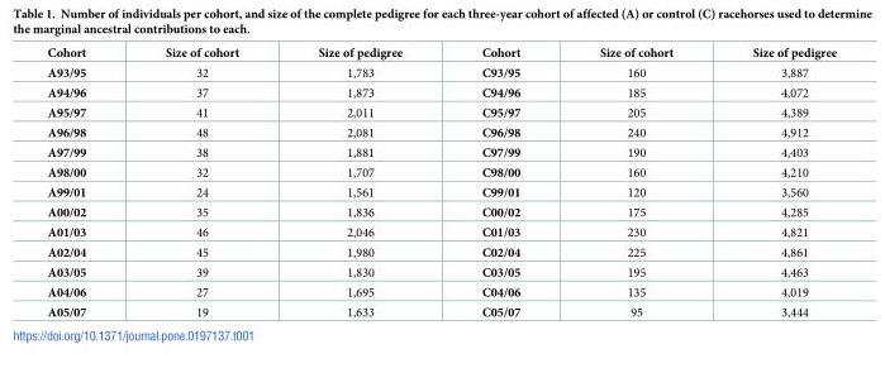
<table><thead><tr><td>Cohort</td><td>Size of cohort</td><td>Size of pedigree</td><td>Cohort</td><td>Size of cohort</td><td>Size of pedigree</td></tr></thead><tbody><tr><td>A93/95</td><td>32</td><td>1,783</td><td>C93/95</td><td>160</td><td>3,887</td></tr><tr><td>A94/96</td><td>37</td><td>1,873</td><td>C94/96</td><td>185</td><td>4,072</td></tr><tr><td>A95/97</td><td>41</td><td>2,011</td><td>C95/97</td><td>205</td><td>4,389</td></tr><tr><td>A96/98</td><td>48</td><td>2,081</td><td>C96/98</td><td>240</td><td>4,912</td></tr><tr><td>A97/99</td><td>38</td><td>1,881</td><td>C97/99</td><td>190</td><td>4,403</td></tr><tr><td>A98/00</td><td>32</td><td>1,707</td><td>C98/00</td><td>160</td><td>4,210</td></tr><tr><td>A99/01</td><td>24</td><td>1,561</td><td>C99/01</td><td>120</td><td>3,560</td></tr><tr><td>A00/02</td><td>35</td><td>1,836</td><td>C00/02</td><td>175</td><td>4,285</td></tr><tr><td>A01/03</td><td>46</td><td>2,046</td><td>C01/03</td><td>230</td><td>4,821</td></tr><tr><td>A02/04</td><td>45</td><td>1,980</td><td>C02/04</td><td>225</td><td>4,861</td></tr><tr><td>A03/05</td><td>39</td><td>1,830</td><td>C03/05</td><td>195</td><td>4,463</td></tr><tr><td>A04/06</td><td>27</td><td>1,695</td><td>C04/06</td><td>135</td><td>4,019</td></tr><tr><td>A05/07</td><td>19</td><td>1,633</td><td>C05/07</td><td>95</td><td>3,444</td></tr></tbody></table>